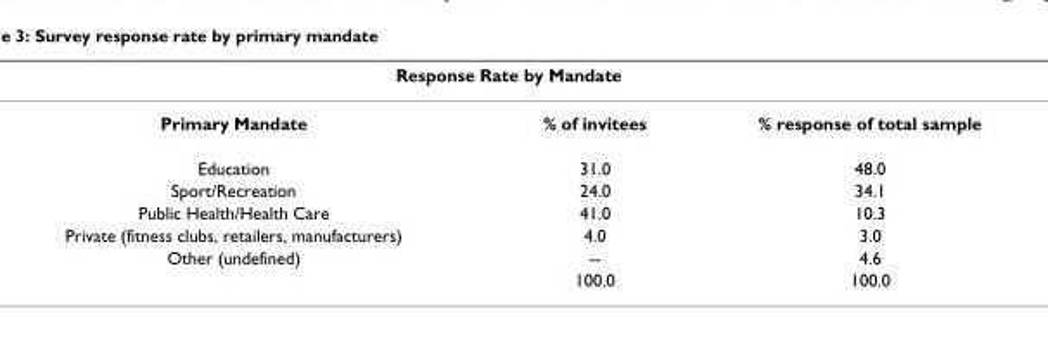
<table><thead><tr><td colspan="3">Response Rate by Mandate</td></tr><tr><td>Primary Mandate</td><td>% of invitees</td><td>% response of total sample</td></tr></thead><tbody><tr><td>Education</td><td>31.0</td><td>48.0</td></tr><tr><td>Sport/Recreation</td><td>24.0</td><td>34.1</td></tr><tr><td>Public Health/Health Care</td><td>41.0</td><td>10.3</td></tr><tr><td>Private (fitness clubs, retailers, manufacturers)</td><td>4.0</td><td>3.0</td></tr><tr><td rowspan="2">Other (undefined)</td><td>--</td><td>4.6</td></tr><tr><td>100.0</td><td>100.0</td></tr></tbody></table>